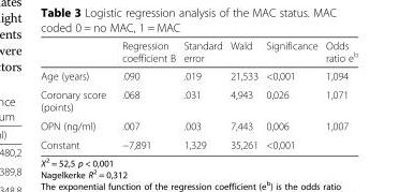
<table><thead><tr><td></td><td>Regression coefficient B</td><td>Standard error</td><td>Wald</td><td>Significance</td><td>Odds ratio e<sup>b</sup></td></tr></thead><tbody><tr><td>Age (years)</td><td>.090</td><td>.019</td><td>21,533</td><td>&lt;0,001</td><td>1,094</td></tr><tr><td>Coronary score (points)</td><td>.068</td><td>.031</td><td>4,943</td><td>0,026</td><td>1,071</td></tr><tr><td>OPN (ng/ml)</td><td>.007</td><td>.003</td><td>7,443</td><td>0,006</td><td>1,007</td></tr><tr><td>Constant</td><td>−7,891</td><td>1,329</td><td>35,261</td><td>&lt;0,001</td><td></td></tr></tbody></table>